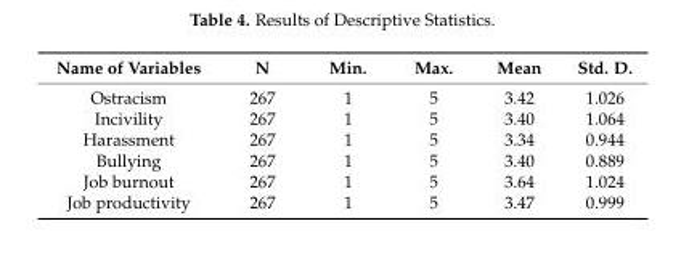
<table><thead><tr><td>Name of Variables</td><td>N</td><td>Min.</td><td>Max.</td><td>Mean</td><td>Std. D.</td></tr></thead><tbody><tr><td>Ostracism</td><td>267</td><td>1</td><td>5</td><td>3.42</td><td>1.026</td></tr><tr><td>Incivility</td><td>267</td><td>1</td><td>5</td><td>3.40</td><td>1.064</td></tr><tr><td>Harassment</td><td>267</td><td>1</td><td>5</td><td>3.34</td><td>0.944</td></tr><tr><td>Bullying</td><td>267</td><td>1</td><td>5</td><td>3.40</td><td>0.889</td></tr><tr><td>Job burnout</td><td>267</td><td>1</td><td>5</td><td>3.64</td><td>1.024</td></tr><tr><td>Job productivity</td><td>267</td><td>1</td><td>5</td><td>3.47</td><td>0.999</td></tr></tbody></table>